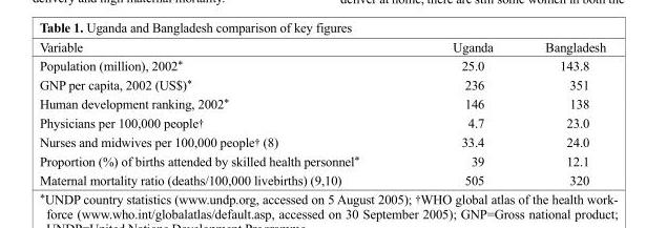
<table><thead><tr><td>Variable</td><td>Uganda</td><td>Bangladesh</td></tr></thead><tbody><tr><td>Population (million), 2002*</td><td>25.0</td><td>143.8</td></tr><tr><td>GNP per capita, 2002 (US$)*</td><td>236</td><td>351</td></tr><tr><td>Human development ranking, 2002*</td><td>146</td><td>138</td></tr><tr><td>Physicians per 100,000 people†</td><td>4.7</td><td>23.0</td></tr><tr><td>Nurses and midwives per 100,000 people† (8)</td><td>33.4</td><td>24.0</td></tr><tr><td>Proportion (%) of births attended by skilled health personnel*</td><td>39</td><td>12.1</td></tr><tr><td>Maternal mortality ratio (deaths/100,000 livebirths) (9,10)</td><td>505</td><td>320</td></tr></tbody></table>